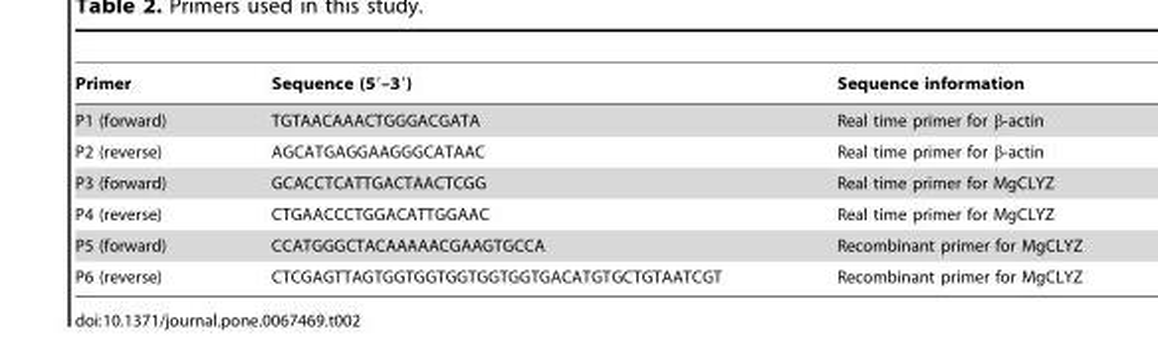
<table><thead><tr><td>Primer</td><td>Sequence (5′–3′)</td><td>Sequence information</td></tr></thead><tbody><tr><td>P1 (forward)</td><td>TGTAACAAACTGGGACGATA</td><td>Real time primer for β-actin</td></tr><tr><td>P2 (reverse)</td><td>AGCATGAGGAAGGGCATAAC</td><td>Real time primer for β-actin</td></tr><tr><td>P3 (forward)</td><td>GCACCTCATTGACTAACTCGG</td><td>Real time primer for MgCLYZ</td></tr><tr><td>P4 (reverse)</td><td>CTGAACCCTGGACATTGGAAC</td><td>Real time primer for MgCLYZ</td></tr><tr><td>P5 (forward)</td><td>CCATGGGCTACAAAAACGAAGTGCCA</td><td>Recombinant primer for MgCLYZ</td></tr><tr><td>P6 (reverse)</td><td>CTCGAGTTAGTGGTGGTGGTGGTGGTGACATGTGCTGTAATCGT</td><td>Recombinant primer for MgCLYZ</td></tr></tbody></table>